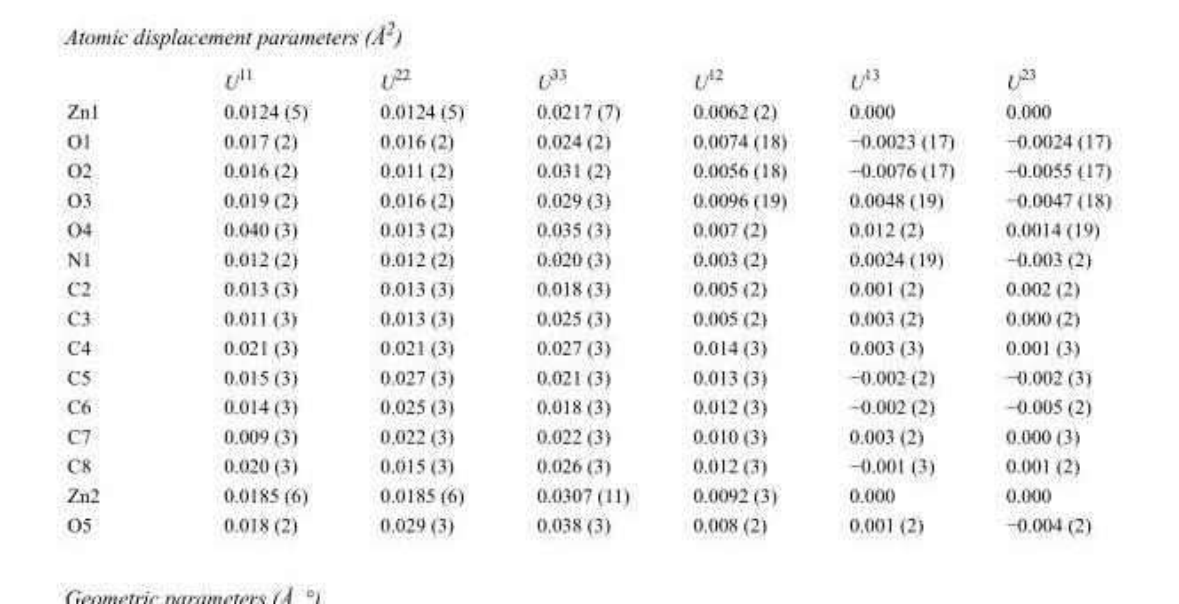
<table><thead><tr><td></td><td>U<sup>11</sup></td><td>U<sup>22</sup></td><td>U<sup>33</sup></td><td>U<sup>12</sup></td><td>U<sup>13</sup></td><td>U<sup>23</sup></td></tr></thead><tbody><tr><td>Zn1</td><td>0.0124 (5)</td><td>0.0124 (5)</td><td>0.0217 (7)</td><td>0.0062 (2)</td><td>0.000</td><td>0.000</td></tr><tr><td>O1</td><td>0.017 (2)</td><td>0.016 (2)</td><td>0.024 (2)</td><td>0.0074 (18)</td><td>−0.0023 (17)</td><td>−0.0024 (17)</td></tr><tr><td>O2</td><td>0.016 (2)</td><td>0.011 (2)</td><td>0.031 (2)</td><td>0.0056 (18)</td><td>−0.0076 (17)</td><td>−0.0055 (17)</td></tr><tr><td>O3</td><td>0.019 (2)</td><td>0.016 (2)</td><td>0.029 (3)</td><td>0.0096 (19)</td><td>0.0048 (19)</td><td>−0.0047 (18)</td></tr><tr><td>O4</td><td>0.040 (3)</td><td>0.013 (2)</td><td>0.035 (3)</td><td>0.007 (2)</td><td>0.012 (2)</td><td>0.0014 (19)</td></tr><tr><td>N1</td><td>0.012 (2)</td><td>0.012 (2)</td><td>0.020 (3)</td><td>0.003 (2)</td><td>0.0024 (19)</td><td>−0.003 (2)</td></tr><tr><td>C2</td><td>0.013 (3)</td><td>0.013 (3)</td><td>0.018 (3)</td><td>0.005 (2)</td><td>0.001 (2)</td><td>0.002 (2)</td></tr><tr><td>C3</td><td>0.011 (3)</td><td>0.013 (3)</td><td>0.025 (3)</td><td>0.005 (2)</td><td>0.003 (2)</td><td>0.000 (2)</td></tr><tr><td>C4</td><td>0.021 (3)</td><td>0.021 (3)</td><td>0.027 (3)</td><td>0.014 (3)</td><td>0.003 (3)</td><td>0.001 (3)</td></tr><tr><td>C5</td><td>0.015 (3)</td><td>0.027 (3)</td><td>0.021 (3)</td><td>0.013 (3)</td><td>−0.002 (2)</td><td>−0.002 (3)</td></tr><tr><td>C6</td><td>0.014 (3)</td><td>0.025 (3)</td><td>0.018 (3)</td><td>0.012 (3)</td><td>−0.002 (2)</td><td>−0.005 (2)</td></tr><tr><td>C7</td><td>0.009 (3)</td><td>0.022 (3)</td><td>0.022 (3)</td><td>0.010 (3)</td><td>0.003 (2)</td><td>0.000 (3)</td></tr><tr><td>C8</td><td>0.020 (3)</td><td>0.015 (3)</td><td>0.026 (3)</td><td>0.012 (3)</td><td>−0.001 (3)</td><td>0.001 (2)</td></tr><tr><td>Zn2</td><td>0.0185 (6)</td><td>0.0185 (6)</td><td>0.0307 (11)</td><td>0.0092 (3)</td><td>0.000</td><td>0.000</td></tr><tr><td>O5</td><td>0.018 (2)</td><td>0.029 (3)</td><td>0.038 (3)</td><td>0.008 (2)</td><td>0.001 (2)</td><td>−0.004 (2)</td></tr></tbody></table>